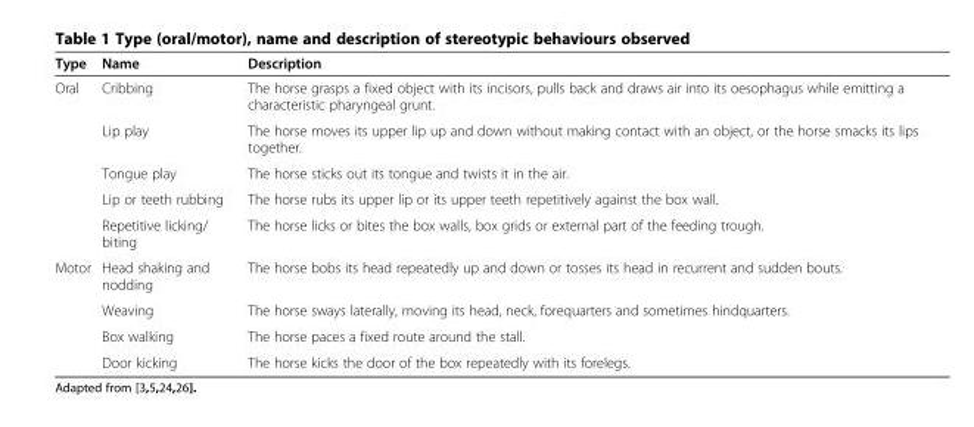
<table><thead><tr><td>Type</td><td>Name</td><td>Description</td></tr></thead><tbody><tr><td rowspan="5">Oral</td><td>Cribbing</td><td>The horse grasps a fixed object with its incisors, pulls back and draws air into its oesophagus while emitting a characteristic pharyngeal grunt.</td></tr><tr><td>Lip play</td><td>The horse moves its upper lip up and down without making contact with an object, or the horse smacks its lips together.</td></tr><tr><td>Tongue play</td><td>The horse sticks out its tongue and twists it in the air.</td></tr><tr><td>Lip or teeth rubbing</td><td>The horse rubs its upper lip or its upper teeth repetitively against the box wall.</td></tr><tr><td>Repetitive licking/ biting</td><td>The horse licks or bites the box walls, box grids or external part of the feeding trough.</td></tr><tr><td rowspan="4">Motor</td><td>Head shaking and nodding</td><td>The horse bobs its head repeatedly up and down or tosses its head in recurrent and sudden bouts.</td></tr><tr><td>Weaving</td><td>The horse sways laterally, moving its head, neck, forequarters and sometimes hindquarters.</td></tr><tr><td>Box walking</td><td>The horse paces a fixed route around the stall.</td></tr><tr><td>Door kicking</td><td>The horse kicks the door of the box repeatedly with its forelegs.</td></tr></tbody></table>